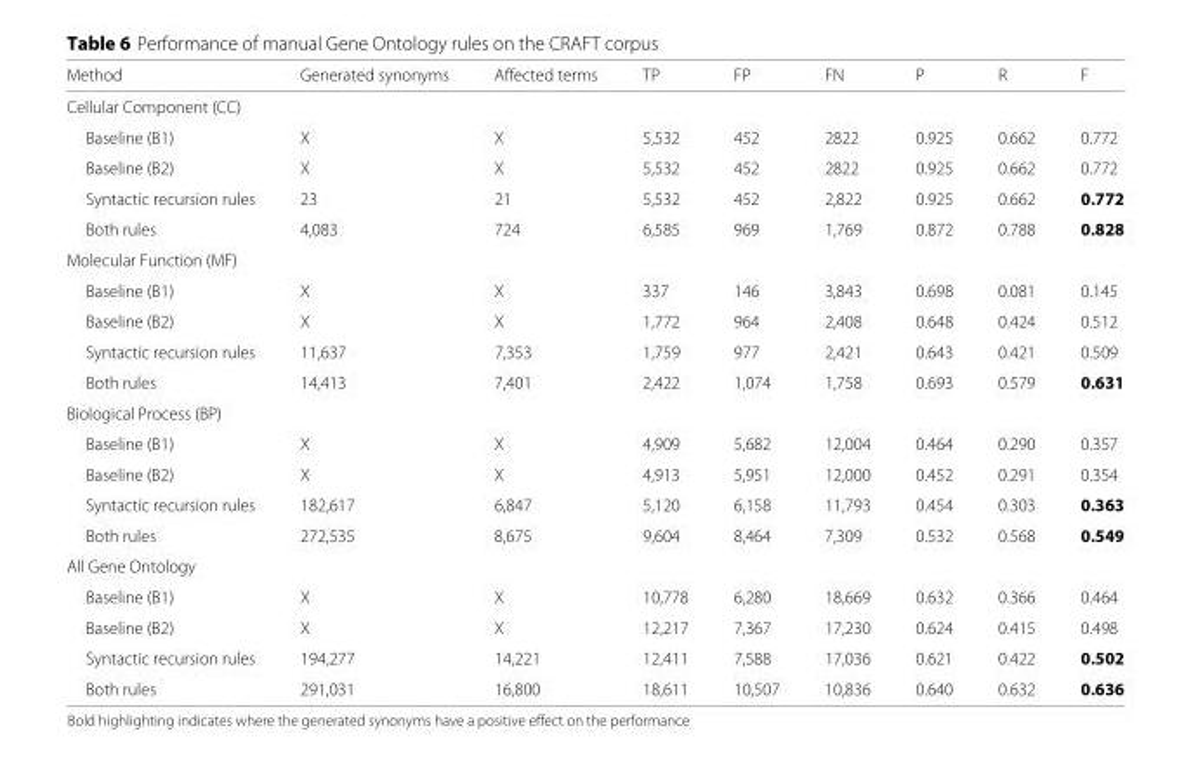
<table><thead><tr><td>Method</td><td>Generated synonyms</td><td>Affected terms</td><td>TP</td><td>FP</td><td>FN</td><td>P</td><td>R</td><td>F</td></tr></thead><tbody><tr><td colspan="9">Cellular Component (CC)</td></tr><tr><td>Baseline (B1)</td><td>X</td><td>X</td><td>5,532</td><td>452</td><td>2822</td><td>0.925</td><td>0.662</td><td>0.772</td></tr><tr><td>Baseline (B2)</td><td>X</td><td>X</td><td>5,532</td><td>452</td><td>2822</td><td>0.925</td><td>0.662</td><td>0.772</td></tr><tr><td>Syntactic recursion rules</td><td>23</td><td>21</td><td>5,532</td><td>452</td><td>2,822</td><td>0.925</td><td>0.662</td><td>0.772</td></tr><tr><td>Both rules</td><td>4,083</td><td>724</td><td>6,585</td><td>969</td><td>1,769</td><td>0.872</td><td>0.788</td><td>0.828</td></tr><tr><td colspan="9">Molecular Function (MF)</td></tr><tr><td>Baseline (B1)</td><td>X</td><td>X</td><td>337</td><td>146</td><td>3,843</td><td>0.698</td><td>0.081</td><td>0.145</td></tr><tr><td>Baseline (B2)</td><td>X</td><td>X</td><td>1,772</td><td>964</td><td>2,408</td><td>0.648</td><td>0.424</td><td>0.512</td></tr><tr><td>Syntactic recursion rules</td><td>11,637</td><td>7,353</td><td>1,759</td><td>977</td><td>2,421</td><td>0.643</td><td>0.421</td><td>0.509</td></tr><tr><td>Both rules</td><td>14,413</td><td>7,401</td><td>2,422</td><td>1,074</td><td>1,758</td><td>0.693</td><td>0.579</td><td>0.631</td></tr><tr><td colspan="9">Biological Process (BP)</td></tr><tr><td>Baseline (B1)</td><td>X</td><td>X</td><td>4,909</td><td>5,682</td><td>12,004</td><td>0.464</td><td>0.290</td><td>0.357</td></tr><tr><td>Baseline (B2)</td><td>X</td><td>X</td><td>4,913</td><td>5,951</td><td>12,000</td><td>0.452</td><td>0.291</td><td>0.354</td></tr><tr><td>Syntactic recursion rules</td><td>182,617</td><td>6,847</td><td>5,120</td><td>6,158</td><td>11,793</td><td>0.454</td><td>0.303</td><td>0.363</td></tr><tr><td>Both rules</td><td>272,535</td><td>8,675</td><td>9,604</td><td>8,464</td><td>7,309</td><td>0.532</td><td>0.568</td><td>0.549</td></tr><tr><td colspan="9">All Gene Ontology</td></tr><tr><td>Baseline (B1)</td><td>X</td><td>X</td><td>10,778</td><td>6,280</td><td>18,669</td><td>0.632</td><td>0.366</td><td>0.464</td></tr><tr><td>Baseline (B2)</td><td>X</td><td>X</td><td>12,217</td><td>7,367</td><td>17,230</td><td>0.624</td><td>0.415</td><td>0.498</td></tr><tr><td>Syntactic recursion rules</td><td>194,277</td><td>14,221</td><td>12,411</td><td>7,588</td><td>17,036</td><td>0.621</td><td>0.422</td><td>0.502</td></tr><tr><td>Both rules</td><td>291,031</td><td>16,800</td><td>18,611</td><td>10,507</td><td>10,836</td><td>0.640</td><td>0.632</td><td>0.636</td></tr></tbody></table>